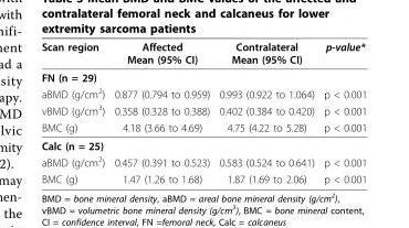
<table><thead><tr><td>Scan region</td><td>Affected Mean (95% CI)</td><td>Contralateral Mean (95% CI)</td><td>p-value*</td></tr></thead><tbody><tr><td colspan="4">FN (n = 29)</td></tr><tr><td>aBMD (g/cm<sup>2</sup>)</td><td>0.877 (0.794 to 0.959)</td><td>0.993 (0.922 to 1.064)</td><td>p &lt; 0.001</td></tr><tr><td>vBMD (g/cm<sup>3</sup>)</td><td>0.358 (0.328 to 0.388)</td><td>0.402 (0.384 to 0.420)</td><td>p &lt; 0.001</td></tr><tr><td>BMC (g)</td><td>4.18 (3.66 to 4.69)</td><td>4.75 (4.22 to 5.28)</td><td>p &lt; 0.001</td></tr><tr><td colspan="4">Calc (n = 25)</td></tr><tr><td>aBMD (g/cm<sup>2</sup>)</td><td>0.457 (0.391 to 0.523)</td><td>0.583 (0.524 to 0.641)</td><td>p &lt; 0.001</td></tr><tr><td>BMC (g)</td><td>1.47 (1.26 to 1.68)</td><td>1.87 (1.69 to 2.06)</td><td>p &lt; 0.001</td></tr></tbody></table>